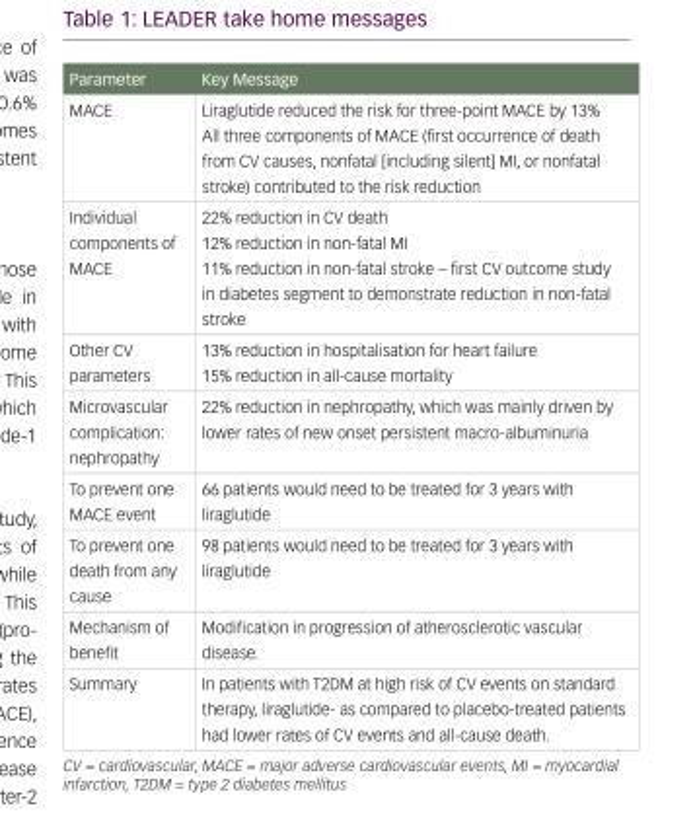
<table><thead><tr><td>Parameter</td><td>Key Message</td></tr></thead><tbody><tr><td>MACE</td><td>Liraglutide reduced the risk for three-point MACE by 13% All three components of MACE (first occurrence of death from CV causes, nonfatal [including silent] MI, or nonfatal stroke) contributed to the risk reduction</td></tr><tr><td>Individual components of MACE</td><td>22% reduction in CV death 12% reduction in non-fatal MI 11% reduction in non-fatal stroke – first CV outcome study in diabetes segment to demonstrate reduction in non-fatal stroke</td></tr><tr><td>Other CV parameters</td><td>13% reduction in hospitalisation for heart failure 15% reduction in all-cause mortality</td></tr><tr><td>Microvascular complication: nephropathy</td><td>22% reduction in nephropathy, which was mainly driven by lower rates of new onset persistent macro-albuminuria</td></tr><tr><td>To prevent one MACE event</td><td>66 patients would need to be treated for 3 years with liraglutide</td></tr><tr><td>To prevent one death from any cause</td><td>98 patients would need to be treated for 3 years with liraglutide</td></tr><tr><td>Mechanism of benefit</td><td>Modification in progression of atherosclerotic vascular disease.</td></tr><tr><td>Summary</td><td>In patients with T2DM at high risk of CV events on standard therapy, liraglutide- as compared to placebo-treated patients had lower rates of CV events and all-cause death.</td></tr></tbody></table>